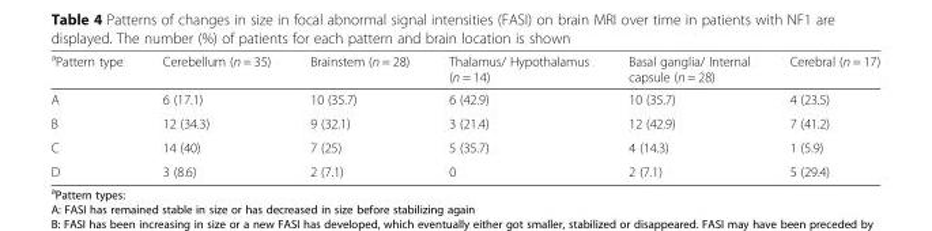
<table><thead><tr><td><sup>a</sup>Pattern type</td><td>Cerebellum (n = 35)</td><td>Brainstem (n = 28)</td><td>Thalamus/ Hypothalamus (n = 14)</td><td>Basal ganglia/ Internal capsule (n = 28)</td><td>Cerebral (n = 17)</td></tr></thead><tbody><tr><td>A</td><td>6 (17.1)</td><td>10 (35.7)</td><td>6 (42.9)</td><td>10 (35.7)</td><td>4 (23.5)</td></tr><tr><td>B</td><td>12 (34.3)</td><td>9 (32.1)</td><td>3 (21.4)</td><td>12 (42.9)</td><td>7 (41.2)</td></tr><tr><td>C</td><td>14 (40)</td><td>7 (25)</td><td>5 (35.7)</td><td>4 (14.3)</td><td>1 (5.9)</td></tr><tr><td>D</td><td>3 (8.6)</td><td>2 (7.1)</td><td>0</td><td>2 (7.1)</td><td>5 (29.4)</td></tr></tbody></table>